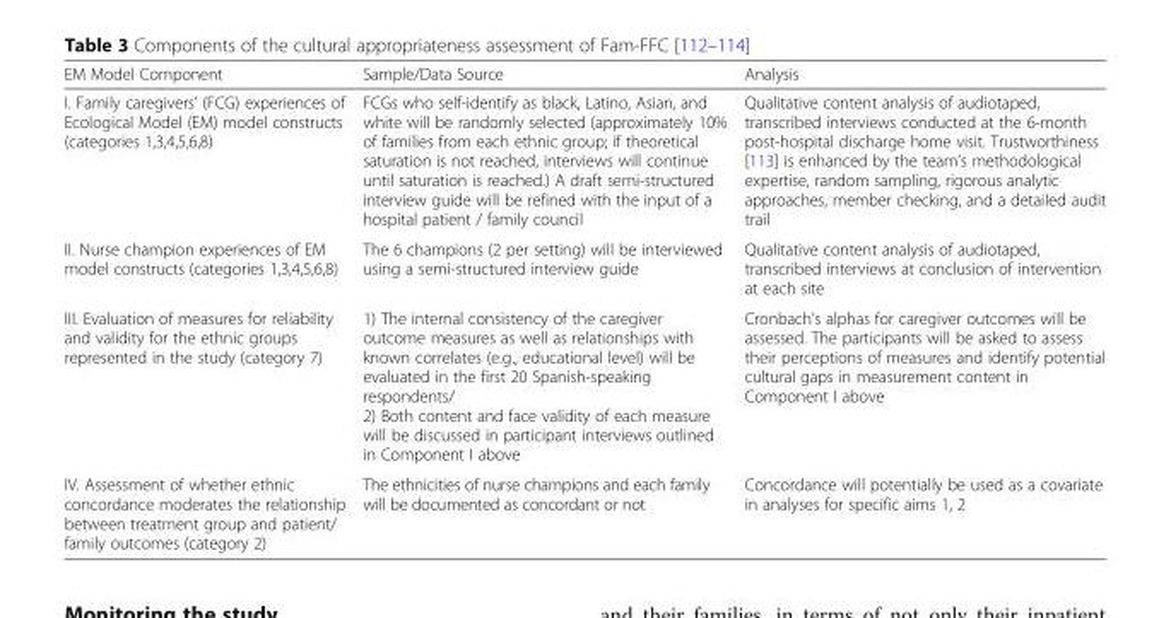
<table><thead><tr><td>EM Model Component</td><td>Sample/Data Source</td><td>Analysis</td></tr></thead><tbody><tr><td>I. Family caregivers’ (FCG) experiences of Ecological Model (EM) model constructs (categories 1,3,4,5,6,8)</td><td>FCGs who self-identify as black, Latino, Asian, and white will be randomly selected (approximately 10% of families from each ethnic group; if theoretical saturation is not reached, interviews will continue until saturation is reached.) A draft semi-structured interview guide will be refined with the input of a hospital patient / family council</td><td>Qualitative content analysis of audiotaped, transcribed interviews conducted at the 6-month post-hospital discharge home visit. Trustworthiness [113] is enhanced by the team’s methodological expertise, random sampling, rigorous analytic approaches, member checking, and a detailed audit trail</td></tr><tr><td>II. Nurse champion experiences of EM model constructs (categories 1,3,4,5,6,8)</td><td>The 6 champions (2 per setting) will be interviewed using a semi-structured interview guide</td><td>Qualitative content analysis of audiotaped, transcribed interviews at conclusion of intervention at each site</td></tr><tr><td>III. Evaluation of measures for reliability and validity for the ethnic groups represented in the study (category 7)</td><td>1) The internal consistency of the caregiver outcome measures as well as relationships with known correlates (e.g., educational level) will be evaluated in the first 20 Spanish-speaking respondents/ 2) Both content and face validity of each measure will be discussed in participant interviews outlined in Component I above</td><td>Cronbach’s alphas for caregiver outcomes will be assessed. The participants will be asked to assess their perceptions of measures and identify potential cultural gaps in measurement content in Component I above</td></tr><tr><td>IV. Assessment of whether ethnic concordance moderates the relationship between treatment group and patient/ family outcomes (category 2)</td><td>The ethnicities of nurse champions and each family will be documented as concordant or not</td><td>Concordance will potentially be used as a covariate in analyses for specific aims 1, 2</td></tr></tbody></table>